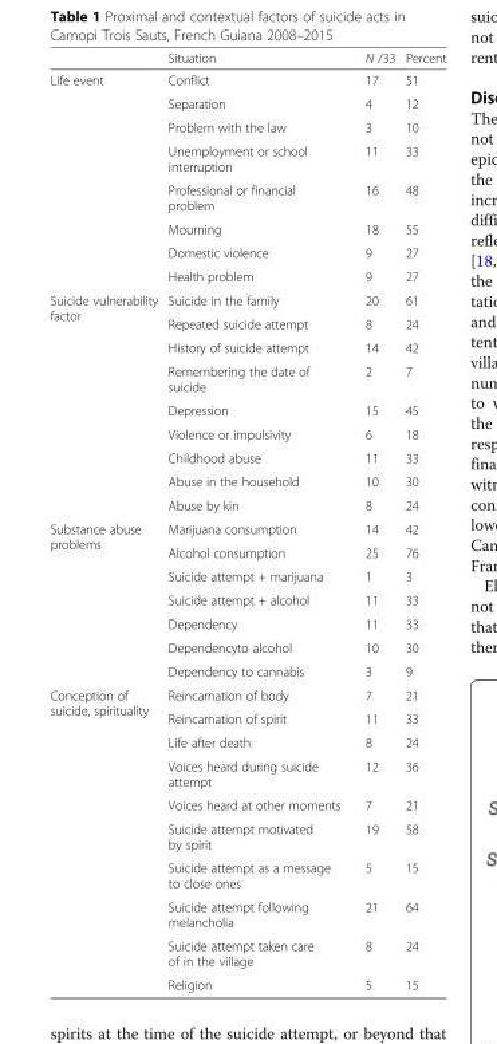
<table><thead><tr><td></td><td>Situation</td><td>N /33</td><td>Percent</td></tr></thead><tbody><tr><td rowspan="8">Life event</td><td>Conflict</td><td>17</td><td>51</td></tr><tr><td>Separation</td><td>4</td><td>12</td></tr><tr><td>Problem with the law</td><td>3</td><td>10</td></tr><tr><td>Unemployment or school interruption</td><td>11</td><td>33</td></tr><tr><td>Professional or financial problem</td><td>16</td><td>48</td></tr><tr><td>Mourning</td><td>18</td><td>55</td></tr><tr><td>Domestic violence</td><td>9</td><td>27</td></tr><tr><td>Health problem</td><td>9</td><td>27</td></tr><tr><td rowspan="9">Suicide vulnerability factor</td><td>Suicide in the family</td><td>20</td><td>61</td></tr><tr><td>Repeated suicide attempt</td><td>8</td><td>24</td></tr><tr><td>History of suicide attempt</td><td>14</td><td>42</td></tr><tr><td>Remembering the date of suicide</td><td>2</td><td>7</td></tr><tr><td>Depression</td><td>15</td><td>45</td></tr><tr><td>Violence or impulsivity</td><td>6</td><td>18</td></tr><tr><td>Childhood abuse</td><td>11</td><td>33</td></tr><tr><td>Abuse in the household</td><td>10</td><td>30</td></tr><tr><td>Abuse by kin</td><td>8</td><td>24</td></tr><tr><td rowspan="7">Substance abuse problems</td><td>Marijuana consumption</td><td>14</td><td>42</td></tr><tr><td>Alcohol consumption</td><td>25</td><td>76</td></tr><tr><td>Suicide attempt + marijuana</td><td>1</td><td>3</td></tr><tr><td>Suicide attempt + alcohol</td><td>11</td><td>33</td></tr><tr><td>Dependency</td><td>11</td><td>33</td></tr><tr><td>Dependencyto alcohol</td><td>10</td><td>30</td></tr><tr><td>Dependency to cannabis</td><td>3</td><td>9</td></tr><tr><td rowspan="10">Conception of suicide, spirituality</td><td>Reincarnation of body</td><td>7</td><td>21</td></tr><tr><td>Reincarnation of spirit</td><td>11</td><td>33</td></tr><tr><td>Life after death</td><td>8</td><td>24</td></tr><tr><td>Voices heard during suicide attempt</td><td>12</td><td>36</td></tr><tr><td>Voices heard at other moments</td><td>7</td><td>21</td></tr><tr><td>Suicide attempt motivated by spirit</td><td>19</td><td>58</td></tr><tr><td>Suicide attempt as a message to close ones</td><td>5</td><td>15</td></tr><tr><td>Suicide attempt following melancholia</td><td>21</td><td>64</td></tr><tr><td>Suicide attempt taken care of in the village</td><td>8</td><td>24</td></tr><tr><td>Religion</td><td>5</td><td>15</td></tr></tbody></table>